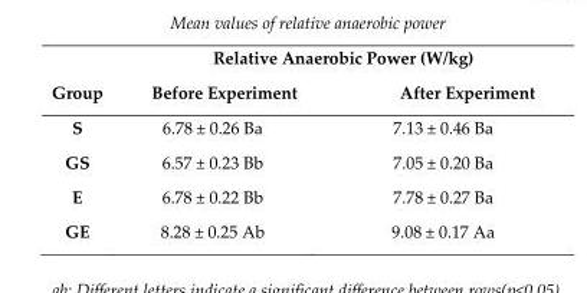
<table><thead><tr><td rowspan="2">Group</td><td colspan="2">Relative Anaerobic Power (W/kg)</td></tr><tr><td>Before Experiment</td><td>After Experiment</td></tr></thead><tbody><tr><td>S</td><td>6.78 ± 0.26 Ba</td><td>7.13 ± 0.46 Ba</td></tr><tr><td>GS</td><td>6.57 ± 0.23 Bb</td><td>7.05 ± 0.20 Ba</td></tr><tr><td>E</td><td>6.78 ± 0.22 Bb</td><td>7.78 ± 0.27 Ba</td></tr><tr><td>GE</td><td>8.28 ± 0.25 Ab</td><td>9.08 ± 0.17 Aa</td></tr></tbody></table>